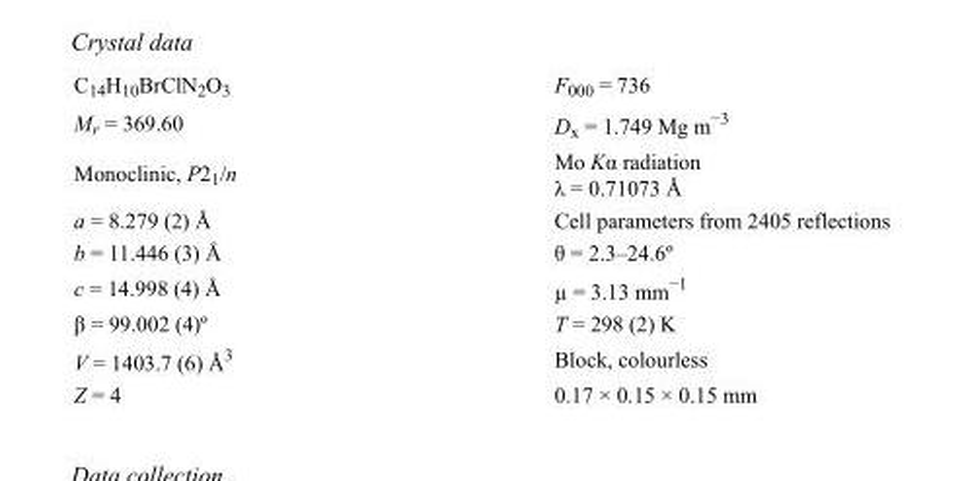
<table><tbody><tr><td>C<sub>14</sub>H<sub>10</sub>BrClN<sub>2</sub>O<sub>3</sub></td><td>F000 = 736</td></tr><tr><td>M<sub>r</sub> = 369.60</td><td>D<sub>x</sub> = 1.749 Mg m<sup>−3</sup></td></tr><tr><td>Monoclinic, P2<sub>1</sub>/n</td><td>Mo Kα radiation λ = 0.71073 Å</td></tr><tr><td>a = 8.279 (2) Å</td><td>Cell parameters from 2405 reflections</td></tr><tr><td>b = 11.446 (3) Å</td><td>θ = 2.3–24.6º</td></tr><tr><td>c = 14.998 (4) Å</td><td>µ = 3.13 mm<sup>−1</sup></td></tr><tr><td>β = 99.002 (4)º</td><td>T = 298 (2) K</td></tr><tr><td>V = 1403.7 (6) Å<sup>3</sup></td><td>Block, colourless</td></tr><tr><td>Z = 4</td><td>0.17 × 0.15 × 0.15 mm</td></tr></tbody></table>